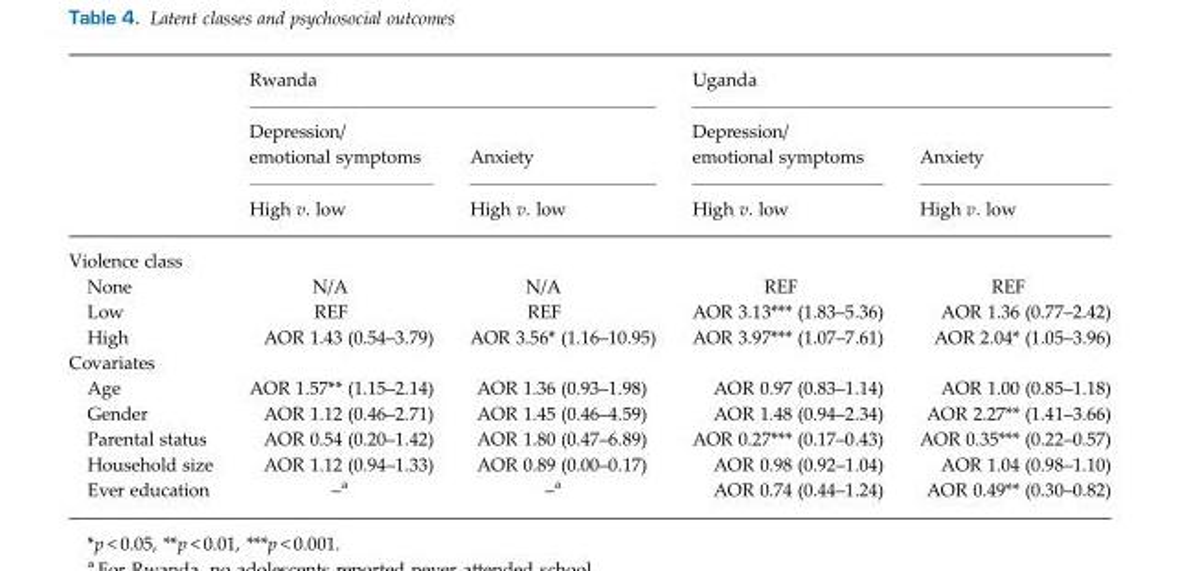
<table><thead><tr><td rowspan="3"></td><td colspan="2">Rwanda</td><td colspan="2">Uganda</td></tr><tr><td rowspan="2">Depression/ emotional symptoms High v. low</td><td rowspan="2">Anxiety High v. low</td><td rowspan="2">Depression/ emotional symptoms High v. low</td><td rowspan="2">Anxiety High v. low</td></tr><tr></tr></thead><tbody><tr><td colspan="5">Violence class</td></tr><tr><td>None</td><td>N/A</td><td>N/A</td><td>REF</td><td>REF</td></tr><tr><td>Low</td><td>REF</td><td>REF</td><td>AOR 3.13*** (1.83–5.36)</td><td>AOR 1.36 (0.77–2.42)</td></tr><tr><td>High</td><td>AOR 1.43 (0.54–3.79)</td><td>AOR 3.56* (1.16–10.95)</td><td>AOR 3.97*** (1.07–7.61)</td><td>AOR 2.04* (1.05–3.96)</td></tr><tr><td colspan="5">Covariates</td></tr><tr><td>Age</td><td>AOR 1.57** (1.15–2.14)</td><td>AOR 1.36 (0.93–1.98)</td><td>AOR 0.97 (0.83–1.14)</td><td>AOR 1.00 (0.85–1.18)</td></tr><tr><td>Gender</td><td>AOR 1.12 (0.46–2.71)</td><td>AOR 1.45 (0.46–4.59)</td><td>AOR 1.48 (0.94–2.34)</td><td>AOR 2.27** (1.41–3.66)</td></tr><tr><td>Parental status</td><td>AOR 0.54 (0.20–1.42)</td><td>AOR 1.80 (0.47–6.89)</td><td>AOR 0.27*** (0.17–0.43)</td><td>AOR 0.35*** (0.22–0.57)</td></tr><tr><td>Household size</td><td>AOR 1.12 (0.94–1.33)</td><td>AOR 0.89 (0.00–0.17)</td><td>AOR 0.98 (0.92–1.04)</td><td>AOR 1.04 (0.98–1.10)</td></tr><tr><td>Ever education</td><td>–<sup>a</sup></td><td>–<sup>a</sup></td><td>AOR 0.74 (0.44–1.24)</td><td>AOR 0.49** (0.30–0.82)</td></tr></tbody></table>